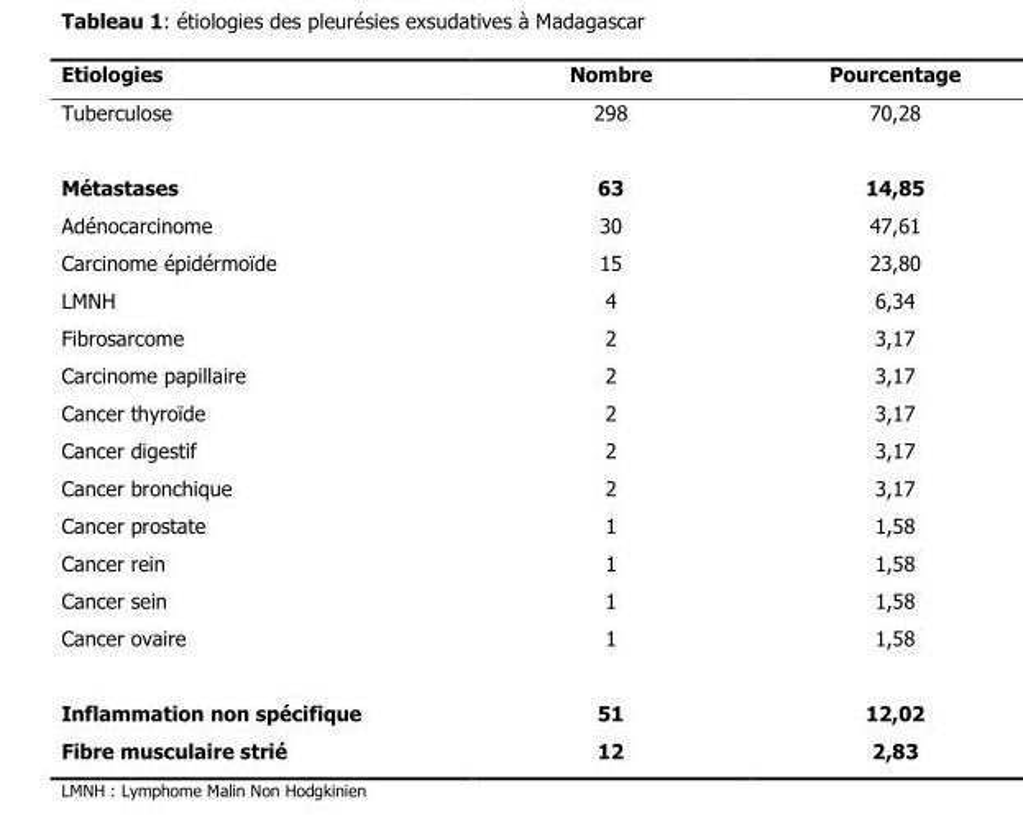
<table><thead><tr><td>Etiologies</td><td>Nombre</td><td>Pourcentage</td></tr></thead><tbody><tr><td>Tuberculose</td><td>298</td><td>70,28</td></tr><tr><td>Métastases</td><td>63</td><td>14,85</td></tr><tr><td>Adénocarcinome</td><td>30</td><td>47,61</td></tr><tr><td>Carcinome épidérmoïde</td><td>15</td><td>23,80</td></tr><tr><td>LMNH</td><td>4</td><td>6,34</td></tr><tr><td>Fibrosarcome</td><td>2</td><td>3,17</td></tr><tr><td>Carcinome papillaire</td><td>2</td><td>3,17</td></tr><tr><td>Cancer thyroïde</td><td>2</td><td>3,17</td></tr><tr><td>Cancer digestif</td><td>2</td><td>3,17</td></tr><tr><td>Cancer bronchique</td><td>2</td><td>3,17</td></tr><tr><td>Cancer prostate</td><td>1</td><td>1,58</td></tr><tr><td>Cancer rein</td><td>1</td><td>1,58</td></tr><tr><td>Cancer sein</td><td>1</td><td>1,58</td></tr><tr><td>Cancer ovaire</td><td>1</td><td>1,58</td></tr><tr><td>Inflammation non spécifique</td><td>51</td><td>12,02</td></tr><tr><td>Fibre musculaire strié</td><td>12</td><td>2,83</td></tr></tbody></table>